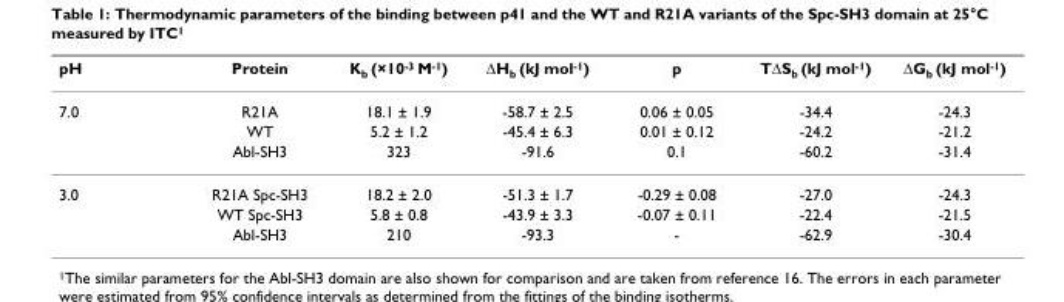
<table><thead><tr><td>pH</td><td>Protein</td><td>Kb (×10-3 M-1)</td><td>ΔHb (kJ mol-1)</td><td>p</td><td>TΔSb (kJ mol-1)</td><td>ΔGb (kJ mol-1)</td></tr></thead><tbody><tr><td rowspan="3">7.0</td><td>R21A</td><td>18.1 ± 1.9</td><td>-58.7 ± 2.5</td><td>0.06 ± 0.05</td><td>-34.4</td><td>-24.3</td></tr><tr><td>WT</td><td>5.2 ± 1.2</td><td>-45.4 ± 6.3</td><td>0.01 ± 0.12</td><td>-24.2</td><td>-21.2</td></tr><tr><td>Abl-SH3</td><td>323</td><td>-91.6</td><td>0.1</td><td>-60.2</td><td>-31.4</td></tr><tr><td rowspan="3">3.0</td><td>R21A Spc-SH3</td><td>18.2 ± 2.0</td><td>-51.3 ± 1.7</td><td>-0.29 ± 0.08</td><td>-27.0</td><td>-24.3</td></tr><tr><td>WT Spc-SH3</td><td>5.8 ± 0.8</td><td>-43.9 ± 3.3</td><td>-0.07 ± 0.11</td><td>-22.4</td><td>-21.5</td></tr><tr><td>Abl-SH3</td><td>210</td><td>-93.3</td><td>-</td><td>-62.9</td><td>-30.4</td></tr></tbody></table>